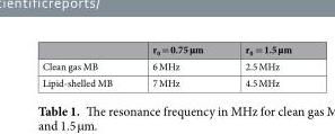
<table><thead><tr><td></td><td>r<sub>0</sub> = 0.75 µm</td><td>r<sub>0</sub> = 1.5 µm</td></tr></thead><tbody><tr><td>Clean gas MB</td><td>6 MHz</td><td>2.5 MHz</td></tr><tr><td>Lipid-shelled MB</td><td>7 MHz</td><td>4.5 MHz</td></tr></tbody></table>